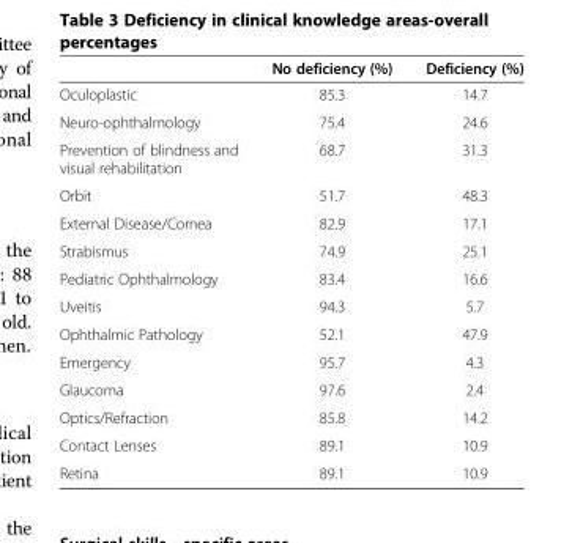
<table><thead><tr><td></td><td>No deficiency (%)</td><td>Deficiency (%)</td></tr></thead><tbody><tr><td>Oculoplastic</td><td>85.3</td><td>14.7</td></tr><tr><td>Neuro-ophthalmology</td><td>75.4</td><td>24.6</td></tr><tr><td>Prevention of blindness and visual rehabilitation</td><td>68.7</td><td>31.3</td></tr><tr><td>Orbit</td><td>51.7</td><td>48.3</td></tr><tr><td>External Disease/Cornea</td><td>82.9</td><td>17.1</td></tr><tr><td>Strabismus</td><td>74.9</td><td>25.1</td></tr><tr><td>Pediatric Ophthalmology</td><td>83.4</td><td>16.6</td></tr><tr><td>Uveitis</td><td>94.3</td><td>5.7</td></tr><tr><td>Ophthalmic Pathology</td><td>52.1</td><td>47.9</td></tr><tr><td>Emergency</td><td>95.7</td><td>4.3</td></tr><tr><td>Glaucoma</td><td>97.6</td><td>2.4</td></tr><tr><td>Optics/Refraction</td><td>85.8</td><td>14.2</td></tr><tr><td>Contact Lenses</td><td>89.1</td><td>10.9</td></tr><tr><td>Retina</td><td>89.1</td><td>10.9</td></tr></tbody></table>